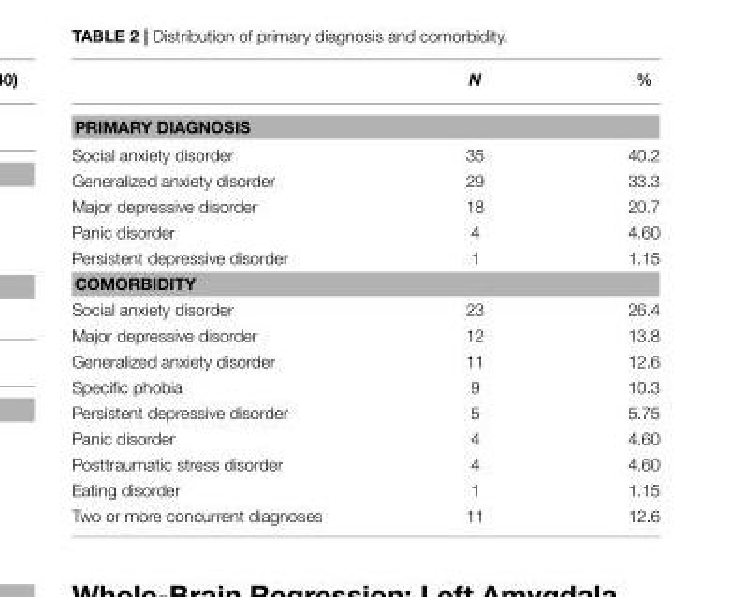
<table><thead><tr><td></td><td>N</td><td>%</td></tr></thead><tbody><tr><td colspan="3">PRIMARY DIAGNOSIS</td></tr><tr><td>Social anxiety disorder</td><td>35</td><td>40.2</td></tr><tr><td>Generalized anxiety disorder</td><td>29</td><td>33.3</td></tr><tr><td>Major depressive disorder</td><td>18</td><td>20.7</td></tr><tr><td>Panic disorder</td><td>4</td><td>4.60</td></tr><tr><td>Persistent depressive disorder</td><td>1</td><td>1.15</td></tr><tr><td colspan="3">COMORBIDITY</td></tr><tr><td>Social anxiety disorder</td><td>23</td><td>26.4</td></tr><tr><td>Major depressive disorder</td><td>12</td><td>13.8</td></tr><tr><td>Generalized anxiety disorder</td><td>11</td><td>12.6</td></tr><tr><td>Specific phobia</td><td>9</td><td>10.3</td></tr><tr><td>Persistent depressive disorder</td><td>5</td><td>5.75</td></tr><tr><td>Panic disorder</td><td>4</td><td>4.60</td></tr><tr><td>Posttraumatic stress disorder</td><td>4</td><td>4.60</td></tr><tr><td>Eating disorder</td><td>1</td><td>1.15</td></tr><tr><td>Two or more concurrent diagnoses</td><td>11</td><td>12.6</td></tr></tbody></table>